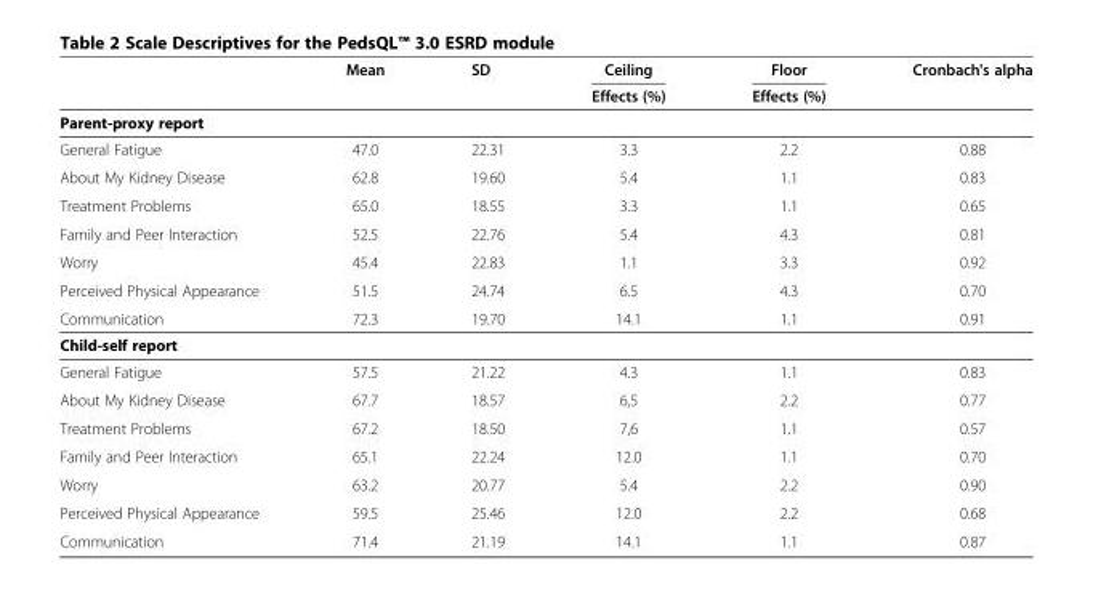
<table><thead><tr><td rowspan="2"></td><td rowspan="2">Mean</td><td rowspan="2">SD</td><td rowspan="2">Ceiling Effects (%)</td><td rowspan="2">Floor Effects (%)</td><td rowspan="2">Cronbach&#x27;s alpha</td></tr><tr></tr></thead><tbody><tr><td colspan="6">Parent-proxy report</td></tr><tr><td>General Fatigue</td><td>47.0</td><td>22.31</td><td>3.3</td><td>2.2</td><td>0.88</td></tr><tr><td>About My Kidney Disease</td><td>62.8</td><td>19.60</td><td>5.4</td><td>1.1</td><td>0.83</td></tr><tr><td>Treatment Problems</td><td>65.0</td><td>18.55</td><td>3.3</td><td>1.1</td><td>0.65</td></tr><tr><td>Family and Peer Interaction</td><td>52.5</td><td>22.76</td><td>5.4</td><td>4.3</td><td>0.81</td></tr><tr><td>Worry</td><td>45.4</td><td>22.83</td><td>1.1</td><td>3.3</td><td>0.92</td></tr><tr><td>Perceived Physical Appearance</td><td>51.5</td><td>24.74</td><td>6.5</td><td>4.3</td><td>0.70</td></tr><tr><td>Communication</td><td>72.3</td><td>19.70</td><td>14.1</td><td>1.1</td><td>0.91</td></tr><tr><td colspan="6">Child-self report</td></tr><tr><td>General Fatigue</td><td>57.5</td><td>21.22</td><td>4.3</td><td>1.1</td><td>0.83</td></tr><tr><td>About My Kidney Disease</td><td>67.7</td><td>18.57</td><td>6,5</td><td>2.2</td><td>0.77</td></tr><tr><td>Treatment Problems</td><td>67.2</td><td>18.50</td><td>7,6</td><td>1.1</td><td>0.57</td></tr><tr><td>Family and Peer Interaction</td><td>65.1</td><td>22.24</td><td>12.0</td><td>1.1</td><td>0.70</td></tr><tr><td>Worry</td><td>63.2</td><td>20.77</td><td>5.4</td><td>2.2</td><td>0.90</td></tr><tr><td>Perceived Physical Appearance</td><td>59.5</td><td>25.46</td><td>12.0</td><td>2.2</td><td>0.68</td></tr><tr><td>Communication</td><td>71.4</td><td>21.19</td><td>14.1</td><td>1.1</td><td>0.87</td></tr></tbody></table>